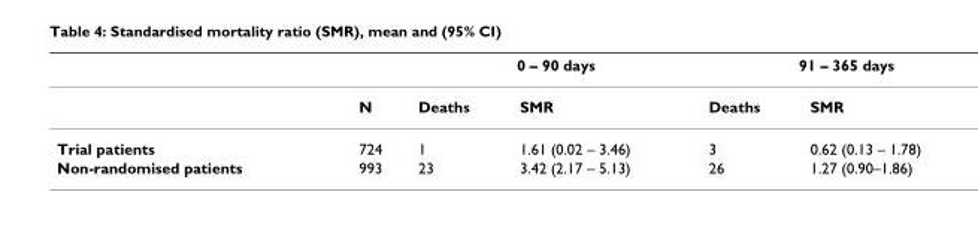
<table><thead><tr><td rowspan="2"></td><td rowspan="2">N</td><td colspan="2">0 – 90 days</td><td colspan="2">91 – 365 days</td></tr><tr><td>Deaths</td><td>SMR</td><td>Deaths</td><td>SMR</td></tr></thead><tbody><tr><td>Trial patients</td><td>724</td><td>1</td><td>1.61 (0.02 – 3.46)</td><td>3</td><td>0.62 (0.13 – 1.78)</td></tr><tr><td>Non-randomised patients</td><td>993</td><td>23</td><td>3.42 (2.17 – 5.13)</td><td>26</td><td>1.27 (0.90–1.86)</td></tr></tbody></table>